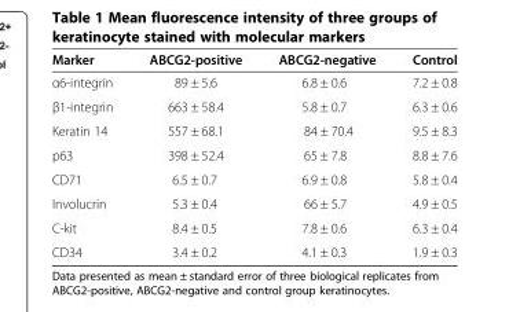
<table><thead><tr><td>Marker</td><td>ABCG2-positive</td><td>ABCG2-negative</td><td>Control</td></tr></thead><tbody><tr><td>α6-integrin</td><td>89 ± 5.6</td><td>6.8 ± 0.6</td><td>7.2 ± 0.8</td></tr><tr><td>β1-integrin</td><td>663 ± 58.4</td><td>5.8 ± 0.7</td><td>6.3 ± 0.6</td></tr><tr><td>Keratin 14</td><td>557 ± 68.1</td><td>84 ± 70.4</td><td>9.5 ± 8.3</td></tr><tr><td>p63</td><td>398 ± 52.4</td><td>65 ± 7.8</td><td>8.8 ± 7.6</td></tr><tr><td>CD71</td><td>6.5 ± 0.7</td><td>6.9 ± 0.8</td><td>5.8 ± 0.4</td></tr><tr><td>Involucrin</td><td>5.3 ± 0.4</td><td>66 ± 5.7</td><td>4.9 ± 0.5</td></tr><tr><td>C-kit</td><td>8.4 ± 0.5</td><td>7.8 ± 0.6</td><td>6.3 ± 0.4</td></tr><tr><td>CD34</td><td>3.4 ± 0.2</td><td>4.1 ± 0.3</td><td>1.9 ± 0.3</td></tr></tbody></table>